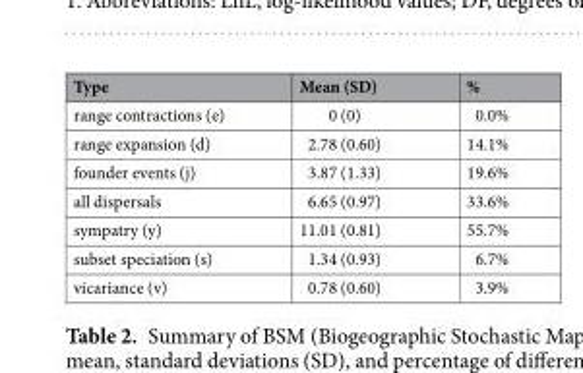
<table><thead><tr><td>Type</td><td>Mean (SD)</td><td>%</td></tr></thead><tbody><tr><td>range contractions (e)</td><td>0 (0)</td><td>0.0%</td></tr><tr><td>range expansion (d)</td><td>2.78 (0.60)</td><td>14.1%</td></tr><tr><td>founder events (j)</td><td>3.87 (1.33)</td><td>19.6%</td></tr><tr><td>all dispersals</td><td>6.65 (0.97)</td><td>33.6%</td></tr><tr><td>sympatry (y)</td><td>11.01 (0.81)</td><td>55.7%</td></tr><tr><td>subset speciation (s)</td><td>1.34 (0.93)</td><td>6.7%</td></tr><tr><td>vicariance (v)</td><td>0.78 (0.60)</td><td>3.9%</td></tr></tbody></table>